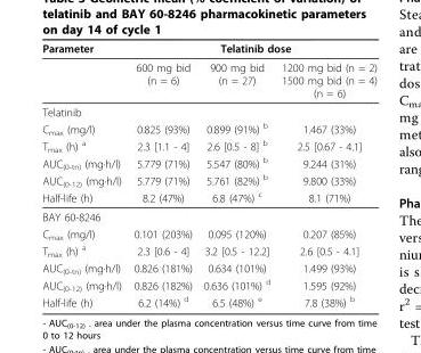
<table><thead><tr><td rowspan="2">Parameter</td><td colspan="3">Telatinib dose</td></tr><tr><td>600 mg bid (n = 6)</td><td>900 mg bid (n = 27)</td><td>1200 mg bid (n = 2) 1500 mg bid (n = 4) (n = 6)</td></tr></thead><tbody><tr><td colspan="4">Telatinib</td></tr><tr><td>C<sub>max</sub> (mg/l)</td><td>0.825 (93%)</td><td>0.899 (91%) <sup>b</sup></td><td>1.467 (33%)</td></tr><tr><td>T<sub>max</sub> (h) <sup>a</sup></td><td>2.3 [1.1 - 4]</td><td>2.6 [0.5 - 8] <sup>b</sup></td><td>2.5 [0.67 - 4.1]</td></tr><tr><td>AUC<sub>(0-tn)</sub> (mg·h/l)</td><td>5.779 (71%)</td><td>5.547 (80%) <sup>b</sup></td><td>9.244 (31%)</td></tr><tr><td>AUC<sub>(0-12)</sub> (mg·h/l)</td><td>5.779 (71%)</td><td>5.761 (82%) <sup>b</sup></td><td>9.800 (33%)</td></tr><tr><td>Half-life (h)</td><td>8.2 (47%)</td><td>6.8 (47%) <sup>c</sup></td><td>8.1 (71%)</td></tr><tr><td colspan="4">BAY 60-8246</td></tr><tr><td>C<sub>max</sub> (mg/l)</td><td>0.101 (203%)</td><td>0.095 (120%)</td><td>0.207 (85%)</td></tr><tr><td>T<sub>max</sub> (h) <sup>a</sup></td><td>2.3 [0.6 - 4]</td><td>3.2 [0.5 - 12.2]</td><td>2.6 [0.5 - 4.1]</td></tr><tr><td>AUC<sub>(0-tn)</sub> (mg·h/l)</td><td>0.826 (181%)</td><td>0.634 (101%)</td><td>1.499 (93%)</td></tr><tr><td>AUC<sub>(0-12)</sub> (mg·h/l)</td><td>0.826 (182%)</td><td>0.636 (101%) <sup>d</sup></td><td>1.595 (92%)</td></tr><tr><td>Half-life (h)</td><td>6.2 (14%) <sup>d</sup></td><td>6.5 (48%) <sup>e</sup></td><td>7.8 (38%) <sup>b</sup></td></tr></tbody></table>